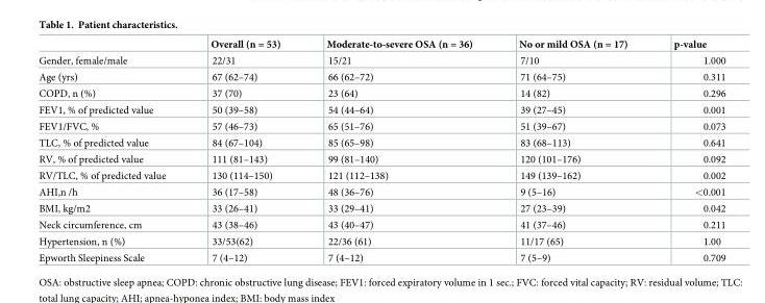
<table><thead><tr><td></td><td>Overall (n = 53)</td><td>Moderate-to-severe OSA (n = 36)</td><td>No or mild OSA (n = 17)</td><td>p-value</td></tr></thead><tbody><tr><td>Gender, female/male</td><td>22/31</td><td>15/21</td><td>7/10</td><td>1.000</td></tr><tr><td>Age (yrs)</td><td>67 (62–74)</td><td>66 (62–72)</td><td>71 (64–75)</td><td>0.311</td></tr><tr><td>COPD, n (%)</td><td>37 (70)</td><td>23 (64)</td><td>14 (82)</td><td>0.296</td></tr><tr><td>FEV1, % of predicted value</td><td>50 (39–58)</td><td>54 (44–64)</td><td>39 (27–45)</td><td>0.001</td></tr><tr><td>FEV1/FVC, %</td><td>57 (46–73)</td><td>65 (51–76)</td><td>51 (39–67)</td><td>0.073</td></tr><tr><td>TLC, % of predicted value</td><td>84 (67–104)</td><td>85 (65–98)</td><td>83 (68–113)</td><td>0.641</td></tr><tr><td>RV, % of predicted value</td><td>111 (81–143)</td><td>99 (81–140)</td><td>120 (101–176)</td><td>0.092</td></tr><tr><td>RV/TLC, % of predicted value</td><td>130 (114–150)</td><td>121 (112–138)</td><td>149 (139–162)</td><td>0.002</td></tr><tr><td>AHI,n /h</td><td>36 (17–58)</td><td>48 (36–76)</td><td>9 (5–16)</td><td>&lt;0.001</td></tr><tr><td>BMI, kg/m2</td><td>33 (26–41)</td><td>33 (29–41)</td><td>27 (23–39)</td><td>0.042</td></tr><tr><td>Neck circumference, cm</td><td>43 (38–46)</td><td>43 (40–47)</td><td>41 (37–46)</td><td>0.211</td></tr><tr><td>Hypertension, n (%)</td><td>33/53(62)</td><td>22/36 (61)</td><td>11/17 (65)</td><td>1.00</td></tr><tr><td>Epworth Sleepiness Scale</td><td>7 (4–12)</td><td>7 (4–12)</td><td>7 (5–9)</td><td>0.709</td></tr></tbody></table>